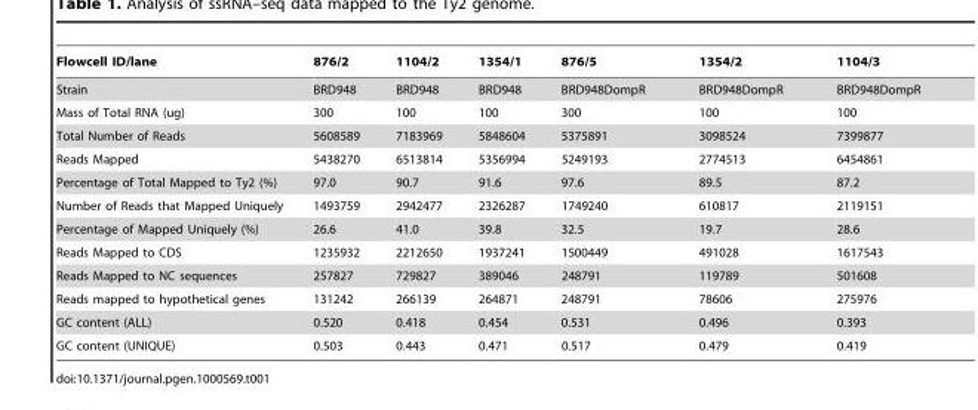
<table><thead><tr><td>Flowcell ID/lane</td><td>876/2</td><td>1104/2</td><td>1354/1</td><td>876/5</td><td>1354/2</td><td>1104/3</td></tr></thead><tbody><tr><td>Strain</td><td>BRD948</td><td>BRD948</td><td>BRD948</td><td>BRD948DompR</td><td>BRD948DompR</td><td>BRD948DompR</td></tr><tr><td>Mass of Total RNA (ug)</td><td>300</td><td>100</td><td>100</td><td>300</td><td>100</td><td>100</td></tr><tr><td>Total Number of Reads</td><td>5608589</td><td>7183969</td><td>5848604</td><td>5375891</td><td>3098524</td><td>7399877</td></tr><tr><td>Reads Mapped</td><td>5438270</td><td>6513814</td><td>5356994</td><td>5249193</td><td>2774513</td><td>6454861</td></tr><tr><td>Percentage of Total Mapped to Ty2 (%)</td><td>97.0</td><td>90.7</td><td>91.6</td><td>97.6</td><td>89.5</td><td>87.2</td></tr><tr><td>Number of Reads that Mapped Uniquely</td><td>1493759</td><td>2942477</td><td>2326287</td><td>1749240</td><td>610817</td><td>2119151</td></tr><tr><td>Percentage of Mapped Uniquely (%)</td><td>26.6</td><td>41.0</td><td>39.8</td><td>32.5</td><td>19.7</td><td>28.6</td></tr><tr><td>Reads Mapped to CDS</td><td>1235932</td><td>2212650</td><td>1937241</td><td>1500449</td><td>491028</td><td>1617543</td></tr><tr><td>Reads Mapped to NC sequences</td><td>257827</td><td>729827</td><td>389046</td><td>248791</td><td>119789</td><td>501608</td></tr><tr><td>Reads mapped to hypothetical genes</td><td>131242</td><td>266139</td><td>264871</td><td>248791</td><td>78606</td><td>275976</td></tr><tr><td>GC content (ALL)</td><td>0.520</td><td>0.418</td><td>0.454</td><td>0.531</td><td>0.496</td><td>0.393</td></tr><tr><td>GC content (UNIQUE)</td><td>0.503</td><td>0.443</td><td>0.471</td><td>0.517</td><td>0.479</td><td>0.419</td></tr></tbody></table>